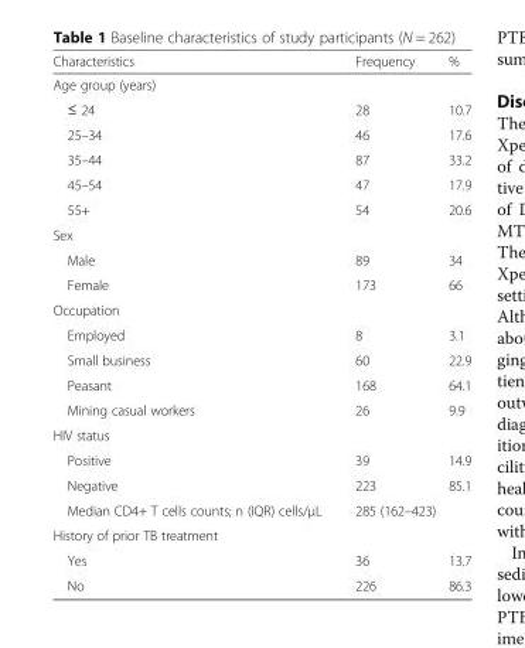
<table><thead><tr><td>Characteristics</td><td>Frequency</td><td>%</td></tr></thead><tbody><tr><td colspan="3">Age group (years)</td></tr><tr><td>≤ 24</td><td>28</td><td>10.7</td></tr><tr><td>25–34</td><td>46</td><td>17.6</td></tr><tr><td>35–44</td><td>87</td><td>33.2</td></tr><tr><td>45–54</td><td>47</td><td>17.9</td></tr><tr><td>55+</td><td>54</td><td>20.6</td></tr><tr><td colspan="3">Sex</td></tr><tr><td>Male</td><td>89</td><td>34</td></tr><tr><td>Female</td><td>173</td><td>66</td></tr><tr><td colspan="3">Occupation</td></tr><tr><td>Employed</td><td>8</td><td>3.1</td></tr><tr><td>Small business</td><td>60</td><td>22.9</td></tr><tr><td>Peasant</td><td>168</td><td>64.1</td></tr><tr><td>Mining casual workers</td><td>26</td><td>9.9</td></tr><tr><td colspan="3">HIV status</td></tr><tr><td>Positive</td><td>39</td><td>14.9</td></tr><tr><td>Negative</td><td>223</td><td>85.1</td></tr><tr><td>Median CD4+ T cells counts; n (IQR) cells/μL</td><td colspan="2">285 (162–423)</td></tr><tr><td colspan="3">History of prior TB treatment</td></tr><tr><td>Yes</td><td>36</td><td>13.7</td></tr><tr><td>No</td><td>226</td><td>86.3</td></tr></tbody></table>